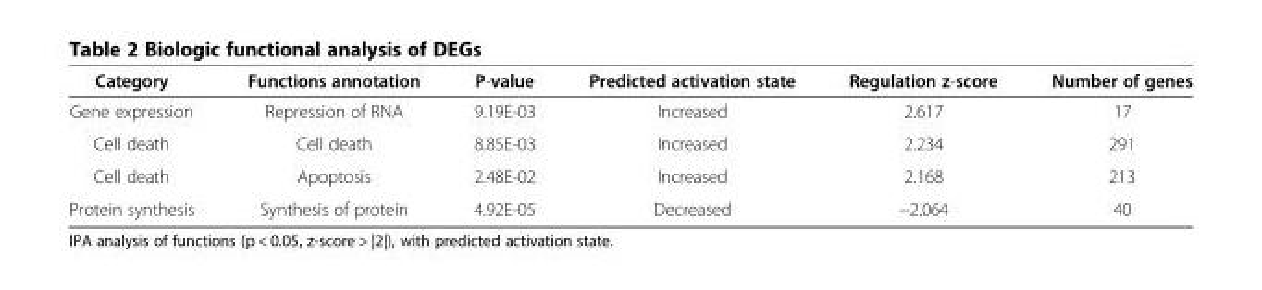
<table><thead><tr><td>Category</td><td>Functions annotation</td><td>P-value</td><td>Predicted activation state</td><td>Regulation z-score</td><td>Number of genes</td></tr></thead><tbody><tr><td>Gene expression</td><td>Repression of RNA</td><td>9.19E-03</td><td>Increased</td><td>2.617</td><td>17</td></tr><tr><td>Cell death</td><td>Cell death</td><td>8.85E-03</td><td>Increased</td><td>2.234</td><td>291</td></tr><tr><td>Cell death</td><td>Apoptosis</td><td>2.48E-02</td><td>Increased</td><td>2.168</td><td>213</td></tr><tr><td>Protein synthesis</td><td>Synthesis of protein</td><td>4.92E-05</td><td>Decreased</td><td>−2.064</td><td>40</td></tr></tbody></table>